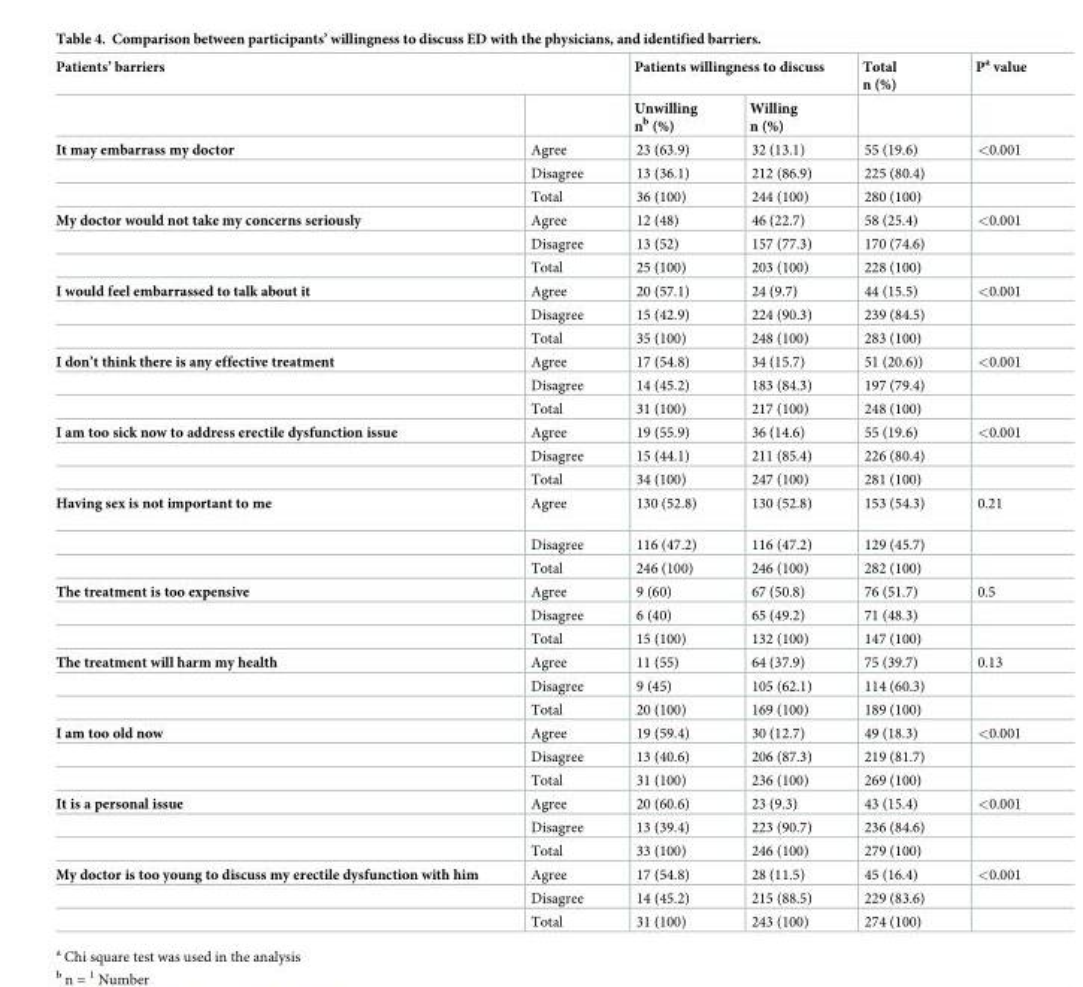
<table><thead><tr><td colspan="2">Patients’ barriers</td><td colspan="2">Patients willingness to discuss</td><td rowspan="2">Total n (%)</td><td rowspan="2">P<sup>a</sup> value</td></tr><tr><td></td><td></td><td>Unwilling n<sup>b</sup> (%)</td><td>Willing n (%)</td></tr></thead><tbody><tr><td rowspan="3">It may embarrass my doctor</td><td>Agree</td><td>23 (63.9)</td><td>32 (13.1)</td><td>55 (19.6)</td><td>&lt;0.001</td></tr><tr><td>Disagree</td><td>13 (36.1)</td><td>212 (86.9)</td><td>225 (80.4)</td><td></td></tr><tr><td>Total</td><td>36 (100)</td><td>244 (100)</td><td>280 (100)</td><td></td></tr><tr><td rowspan="3">My doctor would not take my concerns seriously</td><td>Agree</td><td>12 (48)</td><td>46 (22.7)</td><td>58 (25.4)</td><td>&lt;0.001</td></tr><tr><td>Disagree</td><td>13 (52)</td><td>157 (77.3)</td><td>170 (74.6)</td><td></td></tr><tr><td>Total</td><td>25 (100)</td><td>203 (100)</td><td>228 (100)</td><td></td></tr><tr><td rowspan="3">I would feel embarrassed to talk about it</td><td>Agree</td><td>20 (57.1)</td><td>24 (9.7)</td><td>44 (15.5)</td><td>&lt;0.001</td></tr><tr><td>Disagree</td><td>15 (42.9)</td><td>224 (90.3)</td><td>239 (84.5)</td><td></td></tr><tr><td>Total</td><td>35 (100)</td><td>248 (100)</td><td>283 (100)</td><td></td></tr><tr><td rowspan="3">I don’t think there is any effective treatment</td><td>Agree</td><td>17 (54.8)</td><td>34 (15.7)</td><td>51 (20.6))</td><td>&lt;0.001</td></tr><tr><td>Disagree</td><td>14 (45.2)</td><td>183 (84.3)</td><td>197 (79.4)</td><td></td></tr><tr><td>Total</td><td>31 (100)</td><td>217 (100)</td><td>248 (100)</td><td></td></tr><tr><td rowspan="3">I am too sick now to address erectile dysfunction issue</td><td>Agree</td><td>19 (55.9)</td><td>36 (14.6)</td><td>55 (19.6)</td><td>&lt;0.001</td></tr><tr><td>Disagree</td><td>15 (44.1)</td><td>211 (85.4)</td><td>226 (80.4)</td><td></td></tr><tr><td>Total</td><td>34 (100)</td><td>247 (100)</td><td>281 (100)</td><td></td></tr><tr><td rowspan="3">Having sex is not important to me</td><td>Agree</td><td>130 (52.8)</td><td>130 (52.8)</td><td>153 (54.3)</td><td>0.21</td></tr><tr><td>Disagree</td><td>116 (47.2)</td><td>116 (47.2)</td><td>129 (45.7)</td><td></td></tr><tr><td>Total</td><td>246 (100)</td><td>246 (100)</td><td>282 (100)</td><td></td></tr><tr><td rowspan="3">The treatment is too expensive</td><td>Agree</td><td>9 (60)</td><td>67 (50.8)</td><td>76 (51.7)</td><td>0.5</td></tr><tr><td>Disagree</td><td>6 (40)</td><td>65 (49.2)</td><td>71 (48.3)</td><td></td></tr><tr><td>Total</td><td>15 (100)</td><td>132 (100)</td><td>147 (100)</td><td></td></tr><tr><td rowspan="3">The treatment will harm my health</td><td>Agree</td><td>11 (55)</td><td>64 (37.9)</td><td>75 (39.7)</td><td>0.13</td></tr><tr><td>Disagree</td><td>9 (45)</td><td>105 (62.1)</td><td>114 (60.3)</td><td></td></tr><tr><td>Total</td><td>20 (100)</td><td>169 (100)</td><td>189 (100)</td><td></td></tr><tr><td rowspan="3">I am too old now</td><td>Agree</td><td>19 (59.4)</td><td>30 (12.7)</td><td>49 (18.3)</td><td>&lt;0.001</td></tr><tr><td>Disagree</td><td>13 (40.6)</td><td>206 (87.3)</td><td>219 (81.7)</td><td></td></tr><tr><td>Total</td><td>31 (100)</td><td>236 (100)</td><td>269 (100)</td><td></td></tr><tr><td rowspan="3">It is a personal issue</td><td>Agree</td><td>20 (60.6)</td><td>23 (9.3)</td><td>43 (15.4)</td><td>&lt;0.001</td></tr><tr><td>Disagree</td><td>13 (39.4)</td><td>223 (90.7)</td><td>236 (84.6)</td><td></td></tr><tr><td>Total</td><td>33 (100)</td><td>246 (100)</td><td>279 (100)</td><td></td></tr><tr><td rowspan="3">My doctor is too young to discuss my erectile dysfunction with him</td><td>Agree</td><td>17 (54.8)</td><td>28 (11.5)</td><td>45 (16.4)</td><td>&lt;0.001</td></tr><tr><td>Disagree</td><td>14 (45.2)</td><td>215 (88.5)</td><td>229 (83.6)</td><td></td></tr><tr><td>Total</td><td>31 (100)</td><td>243 (100)</td><td>274 (100)</td><td></td></tr></tbody></table>